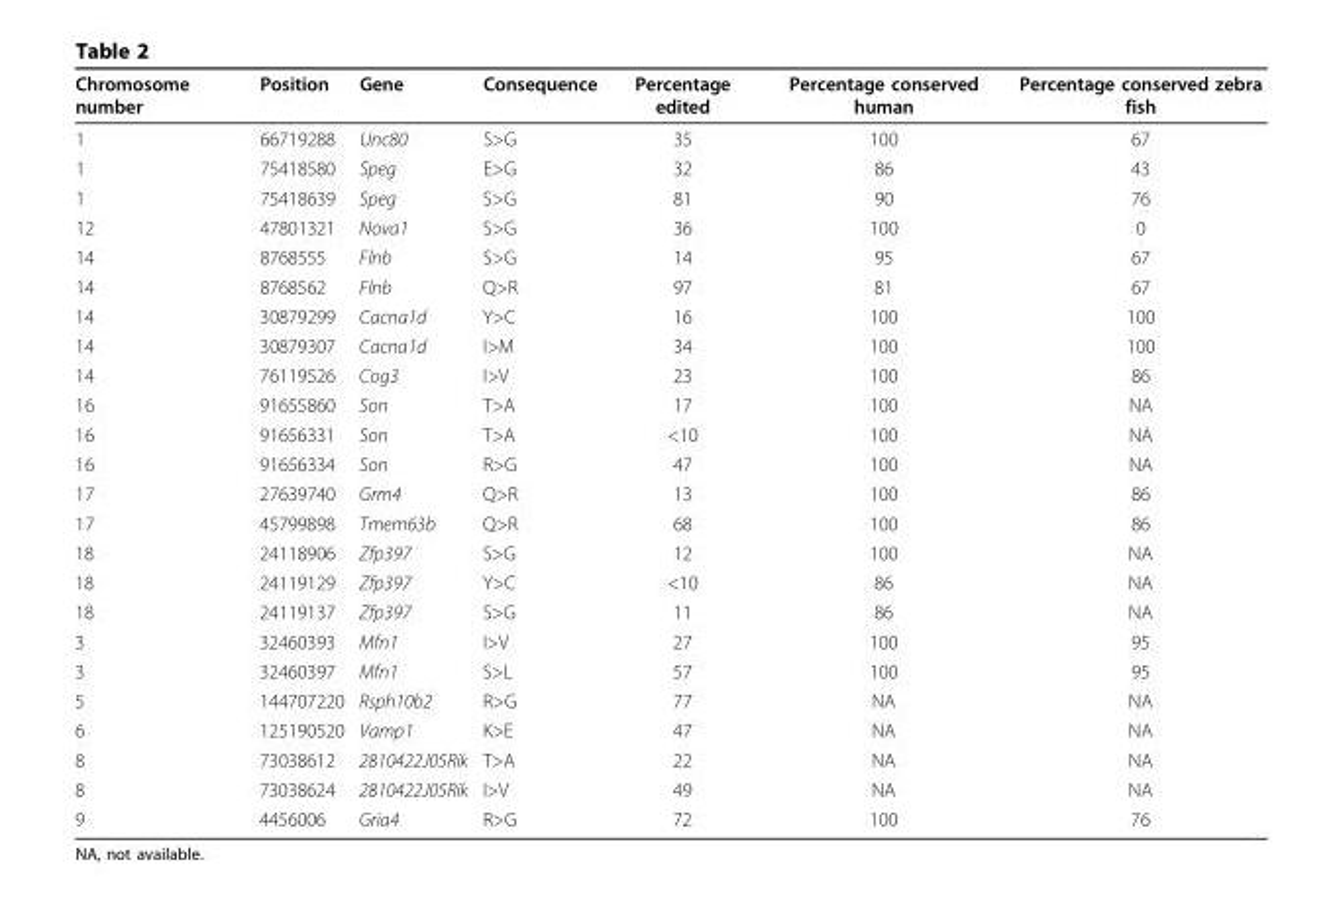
<table><thead><tr><td>Chromosome number</td><td>Position</td><td>Gene</td><td>Consequence</td><td>Percentage edited</td><td>Percentage conserved human</td><td>Percentage conserved zebra fish</td></tr></thead><tbody><tr><td>1</td><td>66719288</td><td>Unc80</td><td>S&gt;G</td><td>35</td><td>100</td><td>67</td></tr><tr><td>1</td><td>75418580</td><td>Speg</td><td>E&gt;G</td><td>32</td><td>86</td><td>43</td></tr><tr><td>1</td><td>75418639</td><td>Speg</td><td>S&gt;G</td><td>81</td><td>90</td><td>76</td></tr><tr><td>12</td><td>47801321</td><td>Nova1</td><td>S&gt;G</td><td>36</td><td>100</td><td>0</td></tr><tr><td>14</td><td>8768555</td><td>Flnb</td><td>S&gt;G</td><td>14</td><td>95</td><td>67</td></tr><tr><td>14</td><td>8768562</td><td>Flnb</td><td>Q&gt;R</td><td>97</td><td>81</td><td>67</td></tr><tr><td>14</td><td>30879299</td><td>Cacna1d</td><td>Y&gt;C</td><td>16</td><td>100</td><td>100</td></tr><tr><td>14</td><td>30879307</td><td>Cacna1d</td><td>I&gt;M</td><td>34</td><td>100</td><td>100</td></tr><tr><td>14</td><td>76119526</td><td>Cog3</td><td>I&gt;V</td><td>23</td><td>100</td><td>86</td></tr><tr><td>16</td><td>91655860</td><td>Son</td><td>T&gt;A</td><td>17</td><td>100</td><td>NA</td></tr><tr><td>16</td><td>91656331</td><td>Son</td><td>T&gt;A</td><td>&lt;10</td><td>100</td><td>NA</td></tr><tr><td>16</td><td>91656334</td><td>Son</td><td>R&gt;G</td><td>47</td><td>100</td><td>NA</td></tr><tr><td>17</td><td>27639740</td><td>Grm4</td><td>Q&gt;R</td><td>13</td><td>100</td><td>86</td></tr><tr><td>17</td><td>45799898</td><td>Tmem63b</td><td>Q&gt;R</td><td>68</td><td>100</td><td>86</td></tr><tr><td>18</td><td>24118906</td><td>Zfp397</td><td>S&gt;G</td><td>12</td><td>100</td><td>NA</td></tr><tr><td>18</td><td>24119129</td><td>Zfp397</td><td>Y&gt;C</td><td>&lt;10</td><td>86</td><td>NA</td></tr><tr><td>18</td><td>24119137</td><td>Zfp397</td><td>S&gt;G</td><td>11</td><td>86</td><td>NA</td></tr><tr><td>3</td><td>32460393</td><td>Mfn1</td><td>I&gt;V</td><td>27</td><td>100</td><td>95</td></tr><tr><td>3</td><td>32460397</td><td>Mfn1</td><td>S&gt;L</td><td>57</td><td>100</td><td>95</td></tr><tr><td>5</td><td>144707220</td><td>Rsph10b2</td><td>R&gt;G</td><td>77</td><td>NA</td><td>NA</td></tr><tr><td>6</td><td>125190520</td><td>Vamp1</td><td>K&gt;E</td><td>47</td><td>NA</td><td>NA</td></tr><tr><td>8</td><td>73038612</td><td>2810422J05Rik</td><td>T&gt;A</td><td>22</td><td>NA</td><td>NA</td></tr><tr><td>8</td><td>73038624</td><td>2810422J05Rik</td><td>I&gt;V</td><td>49</td><td>NA</td><td>NA</td></tr><tr><td>9</td><td>4456006</td><td>Gria4</td><td>R&gt;G</td><td>72</td><td>100</td><td>76</td></tr></tbody></table>